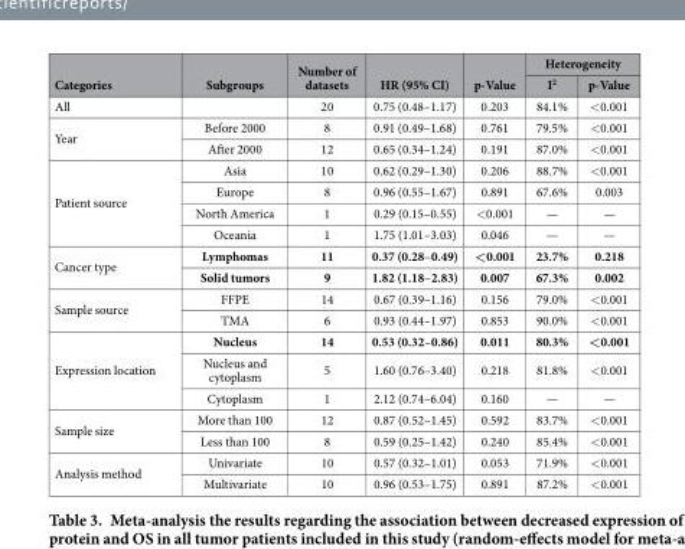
<table><thead><tr><td rowspan="2">Categories</td><td rowspan="2">Subgroups</td><td rowspan="2">Number of datasets</td><td rowspan="2">HR (95% CI)</td><td rowspan="2">p-Value</td><td colspan="2">Heterogeneity</td></tr><tr><td>I<sup>2</sup></td><td>p-Value</td></tr></thead><tbody><tr><td>All</td><td></td><td>20</td><td>0.75 (0.48–1.17)</td><td>0.203</td><td>84.1%</td><td>&lt; 0.001</td></tr><tr><td rowspan="2">Year</td><td>Before 2000</td><td>8</td><td>0.91 (0.49–1.68)</td><td>0.761</td><td>79.5%</td><td>&lt; 0.001</td></tr><tr><td>After 2000</td><td>12</td><td>0.65 (0.34–1.24)</td><td>0.191</td><td>87.0%</td><td>&lt; 0.001</td></tr><tr><td rowspan="4">Patient source</td><td>Asia</td><td>10</td><td>0.62 (0.29–1.30)</td><td>0.206</td><td>88.7%</td><td>&lt; 0.001</td></tr><tr><td>Europe</td><td>8</td><td>0.96 (0.55–1.67)</td><td>0.891</td><td>67.6%</td><td>0.003</td></tr><tr><td>North America</td><td>1</td><td>0.29 (0.15–0.55)</td><td>&lt; 0.001</td><td>—</td><td>—</td></tr><tr><td>Oceania</td><td>1</td><td>1.75 (1.01–3.03)</td><td>0.046</td><td>—</td><td>—</td></tr><tr><td rowspan="2">Cancer type</td><td>Lymphomas</td><td>11</td><td>0.37 (0.28–0.49)</td><td>&lt;0.001</td><td>23.7%</td><td>0.218</td></tr><tr><td>Solid tumors</td><td>9</td><td>1.82 (1.18–2.83)</td><td>0.007</td><td>67.3%</td><td>0.002</td></tr><tr><td rowspan="2">Sample source</td><td>FFPE</td><td>14</td><td>0.67 (0.39–1.16)</td><td>0.156</td><td>79.0%</td><td>&lt; 0.001</td></tr><tr><td>TMA</td><td>6</td><td>0.93 (0.44–1.97)</td><td>0.853</td><td>90.0%</td><td>&lt; 0.001</td></tr><tr><td rowspan="3">Expression location</td><td>Nucleus</td><td>14</td><td>0.53 (0.32–0.86)</td><td>0.011</td><td>80.3%</td><td>&lt;0.001</td></tr><tr><td>Nucleus and cytoplasm</td><td>5</td><td>1.60 (0.76–3.40)</td><td>0.218</td><td>81.8%</td><td>&lt; 0.001</td></tr><tr><td>Cytoplasm</td><td>1</td><td>2.12 (0.74–6.04)</td><td>0.160</td><td>—</td><td>—</td></tr><tr><td rowspan="2">Sample size</td><td>More than 100</td><td>12</td><td>0.87 (0.52–1.45)</td><td>0.592</td><td>83.7%</td><td>&lt; 0.001</td></tr><tr><td>Less than 100</td><td>8</td><td>0.59 (0.25–1.42)</td><td>0.240</td><td>85.4%</td><td>&lt; 0.001</td></tr><tr><td rowspan="2">Analysis method</td><td>Univariate</td><td>10</td><td>0.57 (0.32–1.01)</td><td>0.053</td><td>71.9%</td><td>&lt; 0.001</td></tr><tr><td>Multivariate</td><td>10</td><td>0.96 (0.53–1.75)</td><td>0.891</td><td>87.2%</td><td>&lt; 0.001</td></tr></tbody></table>